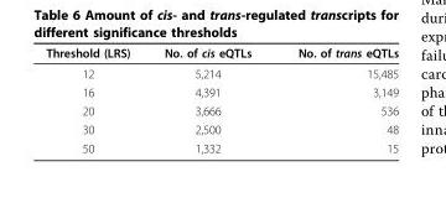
<table><thead><tr><td>Threshold (LRS)</td><td>No. of cis eQTLs</td><td>No. of trans eQTLs</td></tr></thead><tbody><tr><td>12</td><td>5,214</td><td>15,485</td></tr><tr><td>16</td><td>4,391</td><td>3,149</td></tr><tr><td>20</td><td>3,666</td><td>536</td></tr><tr><td>30</td><td>2,500</td><td>48</td></tr><tr><td>50</td><td>1,332</td><td>15</td></tr></tbody></table>